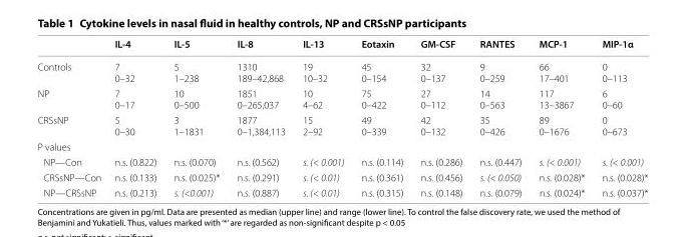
<table><thead><tr><td></td><td>IL-4</td><td>IL-5</td><td>IL-8</td><td>IL-13</td><td>Eotaxin</td><td>GM-CSF</td><td>RANTES</td><td>MCP-1</td><td>MIP-1α</td></tr></thead><tbody><tr><td>Controls</td><td>7 0–32</td><td>5 1–238</td><td>1310 189–42,868</td><td>19 10–32</td><td>45 0–154</td><td>32 0–137</td><td>9 0–259</td><td>66 17–401</td><td>0 0–113</td></tr><tr><td>NP</td><td>7 0–17</td><td>10 0–500</td><td>1851 0–265,037</td><td>10 4–62</td><td>75 0–422</td><td>27 0–112</td><td>14 0–563</td><td>117 13–3867</td><td>6 0–60</td></tr><tr><td>CRSsNP</td><td>5 0–30</td><td>3 1–1831</td><td>1877 0–1,384,113</td><td>15 2–92</td><td>49 0–339</td><td>42 0–132</td><td>35 0–426</td><td>89 0–1676</td><td>0 0–673</td></tr><tr><td colspan="10">P values</td></tr><tr><td>NP—Con</td><td>n.s. (0.822)</td><td>n.s. (0.070)</td><td>n.s. (0.562)</td><td>s. (&lt; 0.001)</td><td>n.s. (0.114)</td><td>n.s. (0.286)</td><td>n.s. (0.447)</td><td>s. (&lt; 0.001)</td><td>s. (&lt; 0.001)</td></tr><tr><td>CRSsNP—Con</td><td>n.s. (0.133)</td><td>n.s. (0.025)*</td><td>n.s. (0.291)</td><td>s. (&lt; 0.01)</td><td>n.s. (0.361)</td><td>n.s. (0.456)</td><td>s. (&lt; 0.050)</td><td>n.s. (0.028)*</td><td>n.s. (0.028)*</td></tr><tr><td>NP—CRSsNP</td><td>n.s. (0.213)</td><td>s. (&lt;0.001)</td><td>n.s. (0.887)</td><td>s. (&lt; 0.01)</td><td>n.s. (0.315)</td><td>n.s. (0.148)</td><td>n.s. (0.079)</td><td>n.s. (0.024)*</td><td>n.s. (0.037)*</td></tr></tbody></table>